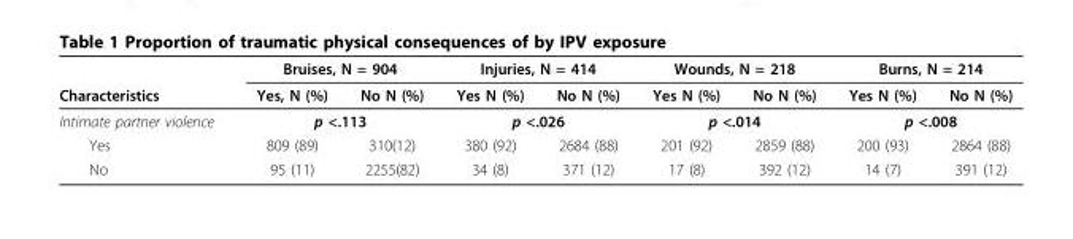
<table><thead><tr><td rowspan="2">Characteristics</td><td colspan="2">Bruises, N = 904</td><td colspan="2">Injuries, N = 414</td><td colspan="2">Wounds, N = 218</td><td colspan="2">Burns, N = 214</td></tr><tr><td>Yes, N (%)</td><td>No N (%)</td><td>Yes N (%)</td><td>No N (%)</td><td>Yes N (%)</td><td>No N (%)</td><td>Yes N (%)</td><td>No N (%)</td></tr></thead><tbody><tr><td>Intimate partner violence</td><td colspan="2">p &lt;.113</td><td colspan="2">p &lt;.026</td><td colspan="2">p &lt;.014</td><td colspan="2">p &lt;.008</td></tr><tr><td>Yes</td><td>809 (89)</td><td>310(12)</td><td>380 (92)</td><td>2684 (88)</td><td>201 (92)</td><td>2859 (88)</td><td>200 (93)</td><td>2864 (88)</td></tr><tr><td>No</td><td>95 (11)</td><td>2255(82)</td><td>34 (8)</td><td>371 (12)</td><td>17 (8)</td><td>392 (12)</td><td>14 (7)</td><td>391 (12)</td></tr></tbody></table>